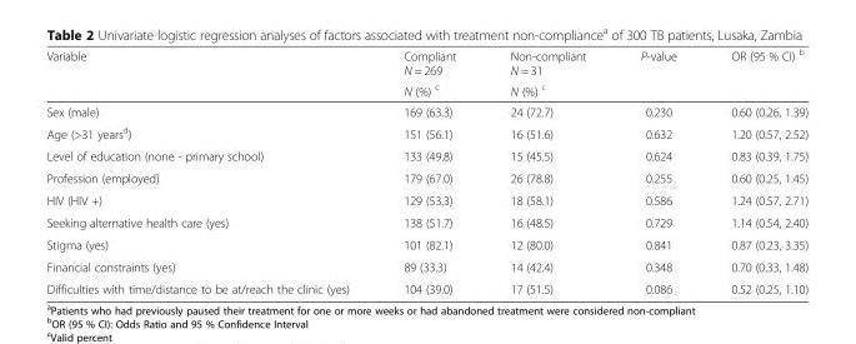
<table><thead><tr><td rowspan="2">Variable</td><td rowspan="2">Compliant N = 269 N (%) <sup>c</sup></td><td rowspan="2">Non-compliant N = 31 N (%) <sup>c</sup></td><td rowspan="2">P-value</td><td rowspan="2">OR (95 % CI) <sup>b</sup></td></tr><tr></tr></thead><tbody><tr><td>Sex (male)</td><td>169 (63.3)</td><td>24 (72.7)</td><td>0.230</td><td>0.60 (0.26, 1.39)</td></tr><tr><td>Age (&gt;31 years<sup>d</sup>)</td><td>151 (56.1)</td><td>16 (51.6)</td><td>0.632</td><td>1.20 (0.57, 2.52)</td></tr><tr><td>Level of education (none - primary school)</td><td>133 (49.8)</td><td>15 (45.5)</td><td>0.624</td><td>0.83 (0.39, 1.75)</td></tr><tr><td>Profession (employed)</td><td>179 (67.0)</td><td>26 (78.8)</td><td>0.255</td><td>0.60 (0.25, 1.45)</td></tr><tr><td>HIV (HIV +)</td><td>129 (53.3)</td><td>18 (58.1)</td><td>0.586</td><td>1.24 (0.57, 2.71)</td></tr><tr><td>Seeking alternative health care (yes)</td><td>138 (51.7)</td><td>16 (48.5)</td><td>0.729</td><td>1.14 (0.54, 2.40)</td></tr><tr><td>Stigma (yes)</td><td>101 (82.1)</td><td>12 (80.0)</td><td>0.841</td><td>0.87 (0.23, 3.35)</td></tr><tr><td>Financial constraints (yes)</td><td>89 (33.3)</td><td>14 (42.4)</td><td>0.348</td><td>0.70 (0.33, 1.48)</td></tr><tr><td>Difficulties with time/distance to be at/reach the clinic (yes)</td><td>104 (39.0)</td><td>17 (51.5)</td><td>0.086</td><td>0.52 (0.25, 1.10)</td></tr></tbody></table>